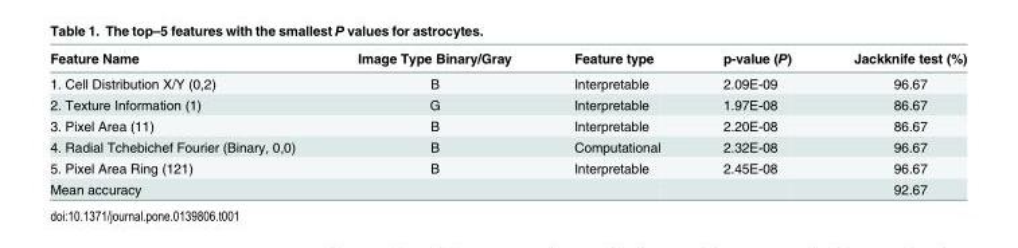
<table><thead><tr><td>Feature Name</td><td>Image Type Binary/Gray</td><td>Feature type</td><td>p-value (P)</td><td>Jackknife test (%)</td></tr></thead><tbody><tr><td>1. Cell Distribution X/Y (0,2)</td><td>B</td><td>Interpretable</td><td>2.09E-09</td><td>96.67</td></tr><tr><td>2. Texture Information (1)</td><td>G</td><td>Interpretable</td><td>1.97E-08</td><td>86.67</td></tr><tr><td>3. Pixel Area (11)</td><td>B</td><td>Interpretable</td><td>2.20E-08</td><td>86.67</td></tr><tr><td>4. Radial Tchebichef Fourier (Binary, 0,0)</td><td>B</td><td>Computational</td><td>2.32E-08</td><td>96.67</td></tr><tr><td>5. Pixel Area Ring (121)</td><td>B</td><td>Interpretable</td><td>2.45E-08</td><td>96.67</td></tr><tr><td>Mean accuracy</td><td></td><td></td><td></td><td>92.67</td></tr></tbody></table>